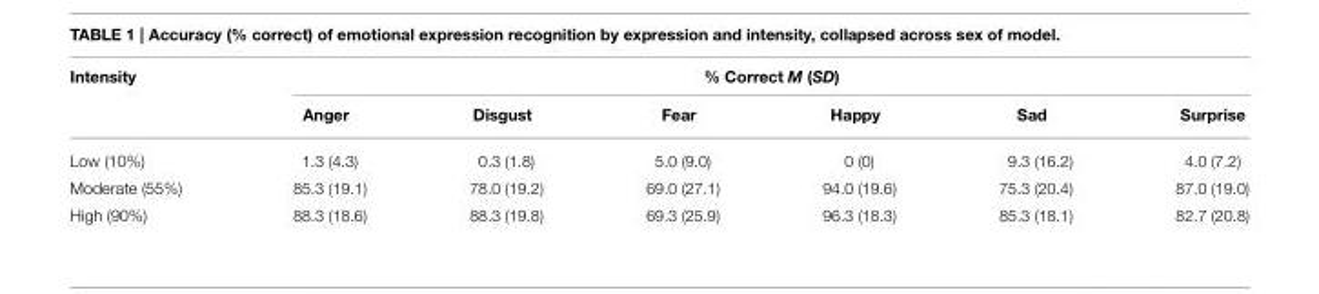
<table><thead><tr><td rowspan="2">Intensity</td><td colspan="6">% Correct M (SD)</td></tr><tr><td>Anger</td><td>Disgust</td><td>Fear</td><td>Happy</td><td>Sad</td><td>Surprise</td></tr></thead><tbody><tr><td>Low (10%)</td><td>1.3 (4.3)</td><td>0.3 (1.8)</td><td>5.0 (9.0)</td><td>0 (0)</td><td>9.3 (16.2)</td><td>4.0 (7.2)</td></tr><tr><td>Moderate (55%)</td><td>85.3 (19.1)</td><td>78.0 (19.2)</td><td>69.0 (27.1)</td><td>94.0 (19.6)</td><td>75.3 (20.4)</td><td>87.0 (19.0)</td></tr><tr><td>High (90%)</td><td>88.3 (18.6)</td><td>88.3 (19.8)</td><td>69.3 (25.9)</td><td>96.3 (18.3)</td><td>85.3 (18.1)</td><td>82.7 (20.8)</td></tr></tbody></table>